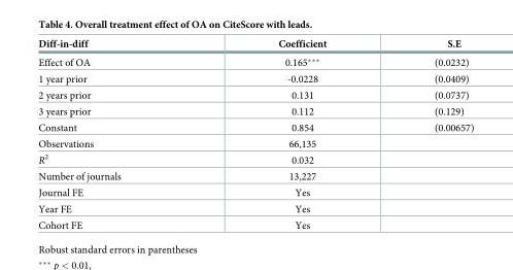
<table><thead><tr><td>Diff-in-diff</td><td>Coefficient</td><td>S.E</td></tr></thead><tbody><tr><td>Effect of OA</td><td>0.165***</td><td>(0.0232)</td></tr><tr><td>1 year prior</td><td>-0.0228</td><td>(0.0409)</td></tr><tr><td>2 years prior</td><td>0.131</td><td>(0.0737)</td></tr><tr><td>3 years prior</td><td>0.112</td><td>(0.129)</td></tr><tr><td>Constant</td><td>0.854</td><td>(0.00657)</td></tr><tr><td>Observations</td><td>66,135</td><td></td></tr><tr><td>R<sup>2</sup></td><td>0.032</td><td></td></tr><tr><td>Number of journals</td><td>13,227</td><td></td></tr><tr><td>Journal FE</td><td>Yes</td><td></td></tr><tr><td>Year FE</td><td>Yes</td><td></td></tr><tr><td>Cohort FE</td><td>Yes</td><td></td></tr></tbody></table>